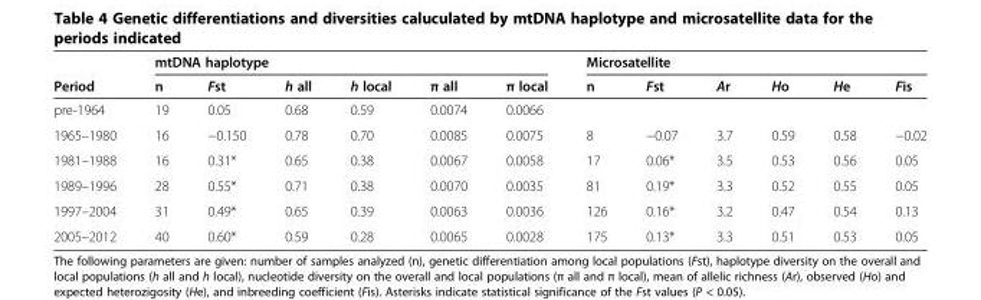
<table><thead><tr><td rowspan="2">Period</td><td colspan="6">mtDNA haplotype</td><td colspan="6">Microsatellite</td></tr><tr><td>n</td><td>Fst</td><td>h all</td><td>h local</td><td>π all</td><td>π local</td><td>n</td><td>Fst</td><td>Ar</td><td>Ho</td><td>He</td><td>Fis</td></tr></thead><tbody><tr><td>pre-1964</td><td>19</td><td>0.05</td><td>0.68</td><td>0.59</td><td>0.0074</td><td>0.0066</td><td></td><td></td><td></td><td></td><td></td><td></td></tr><tr><td>1965–1980</td><td>16</td><td>−0.150</td><td>0.78</td><td>0.70</td><td>0.0085</td><td>0.0075</td><td>8</td><td>−0.07</td><td>3.7</td><td>0.59</td><td>0.58</td><td>−0.02</td></tr><tr><td>1981–1988</td><td>16</td><td>0.31*</td><td>0.65</td><td>0.38</td><td>0.0067</td><td>0.0058</td><td>17</td><td>0.06*</td><td>3.5</td><td>0.53</td><td>0.56</td><td>0.05</td></tr><tr><td>1989–1996</td><td>28</td><td>0.55*</td><td>0.71</td><td>0.38</td><td>0.0070</td><td>0.0035</td><td>81</td><td>0.19*</td><td>3.3</td><td>0.52</td><td>0.55</td><td>0.05</td></tr><tr><td>1997–2004</td><td>31</td><td>0.49*</td><td>0.65</td><td>0.39</td><td>0.0063</td><td>0.0036</td><td>126</td><td>0.16*</td><td>3.2</td><td>0.47</td><td>0.54</td><td>0.13</td></tr><tr><td>2005–2012</td><td>40</td><td>0.60*</td><td>0.59</td><td>0.28</td><td>0.0065</td><td>0.0028</td><td>175</td><td>0.13*</td><td>3.3</td><td>0.51</td><td>0.53</td><td>0.05</td></tr></tbody></table>